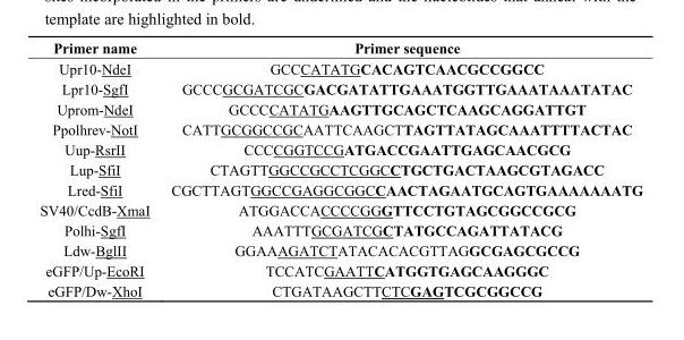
<table><thead><tr><td>Primer name</td><td>Primer sequence</td></tr></thead><tbody><tr><td>Upr10-NdeI</td><td>GCCCATATGCACAGTCAACGCCGGCC</td></tr><tr><td>Lpr10-SgfI</td><td>GCCCGCGATCGCGACGATATTGAAATGGTTGAAATAAATATAC</td></tr><tr><td>Uprom-NdeI</td><td>GCCCCATATGAAGTTGCAGCTCAAGCAGGATTGT</td></tr><tr><td>Ppolhrev-NotI</td><td>CATTGCGGCCGCAATTCAAGCTTAGTTATAGCAAATTTTACTAC</td></tr><tr><td>Uup-RsrII</td><td>CCCCGGTCCGATGACCGAATTGAGCAACGCG</td></tr><tr><td>Lup-SfiI</td><td>CTAGTTGGCCGCCTCGGCCTGCTGACTAAGCGTAGACC</td></tr><tr><td>Lred-SfiI</td><td>CGCTTAGTGGCCGAGGCGGCCAACTAGAATGCAGTGAAAAAAATG</td></tr><tr><td>SV40/CcdB-XmaI</td><td>ATGGACCACCCCGGGTTCCTGTAGCGGCCGCG</td></tr><tr><td>Polhi-SgfI</td><td>AAATTTGCGATCGCTATGCCAGATTATACG</td></tr><tr><td>Ldw-BglII</td><td>GGAAAGATCTATACACACGTTAGGCGAGCGCCG</td></tr><tr><td>eGFP/Up-EcoRI</td><td>TCCATCGAATTCATGGTGAGCAAGGGC</td></tr><tr><td>eGFP/Dw-XhoI</td><td>CTGATAAGCTTCTCGAGTCGCGGCCG</td></tr></tbody></table>